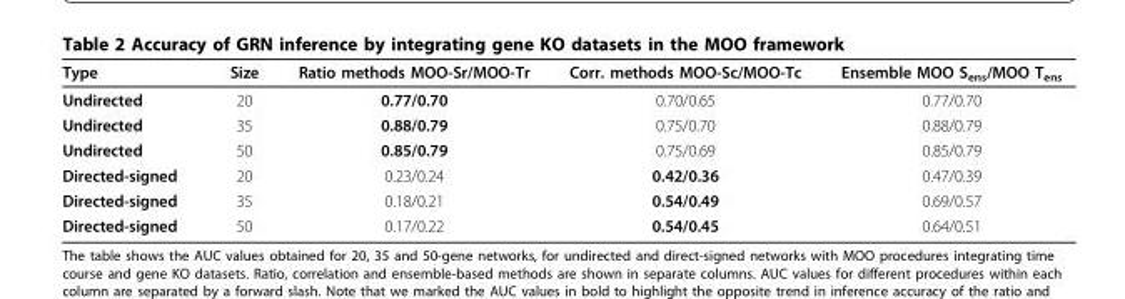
<table><thead><tr><td>Type</td><td>Size</td><td>Ratio methods MOO-Sr/MOO-Tr</td><td>Corr. methods MOO-Sc/MOO-Tc</td><td>Ensemble MOO S<sub>ens</sub>/MOO T<sub>ens</sub></td></tr></thead><tbody><tr><td>Undirected</td><td>20</td><td>0.77/0.70</td><td>0.70/0.65</td><td>0.77/0.70</td></tr><tr><td>Undirected</td><td>35</td><td>0.88/0.79</td><td>0.75/0.70</td><td>0.88/0.79</td></tr><tr><td>Undirected</td><td>50</td><td>0.85/0.79</td><td>0.75/0.69</td><td>0.85/0.79</td></tr><tr><td>Directed-signed</td><td>20</td><td>0.23/0.24</td><td>0.42/0.36</td><td>0.47/0.39</td></tr><tr><td>Directed-signed</td><td>35</td><td>0.18/0.21</td><td>0.54/0.49</td><td>0.69/0.57</td></tr><tr><td>Directed-signed</td><td>50</td><td>0.17/0.22</td><td>0.54/0.45</td><td>0.64/0.51</td></tr></tbody></table>